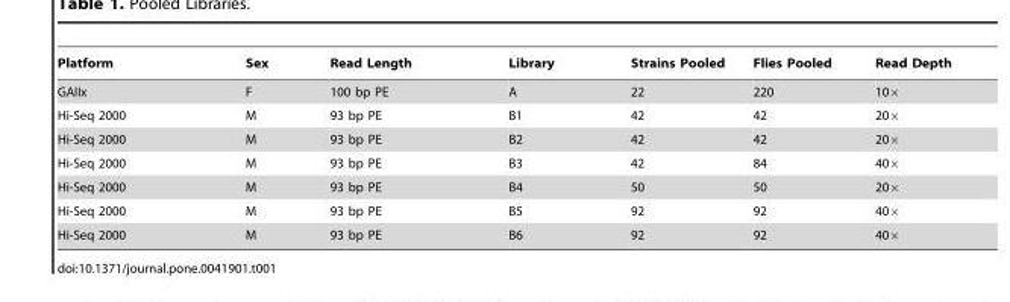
<table><thead><tr><td>Platform</td><td>Sex</td><td>Read Length</td><td>Library</td><td>Strains Pooled</td><td>Flies Pooled</td><td>Read Depth</td></tr></thead><tbody><tr><td>GAIIx</td><td>F</td><td>100 bp PE</td><td>A</td><td>22</td><td>220</td><td>10×</td></tr><tr><td>Hi-Seq 2000</td><td>M</td><td>93 bp PE</td><td>B1</td><td>42</td><td>42</td><td>20×</td></tr><tr><td>Hi-Seq 2000</td><td>M</td><td>93 bp PE</td><td>B2</td><td>42</td><td>42</td><td>20×</td></tr><tr><td>Hi-Seq 2000</td><td>M</td><td>93 bp PE</td><td>B3</td><td>42</td><td>84</td><td>40×</td></tr><tr><td>Hi-Seq 2000</td><td>M</td><td>93 bp PE</td><td>B4</td><td>50</td><td>50</td><td>20×</td></tr><tr><td>Hi-Seq 2000</td><td>M</td><td>93 bp PE</td><td>B5</td><td>92</td><td>92</td><td>40×</td></tr><tr><td>Hi-Seq 2000</td><td>M</td><td>93 bp PE</td><td>B6</td><td>92</td><td>92</td><td>40×</td></tr></tbody></table>